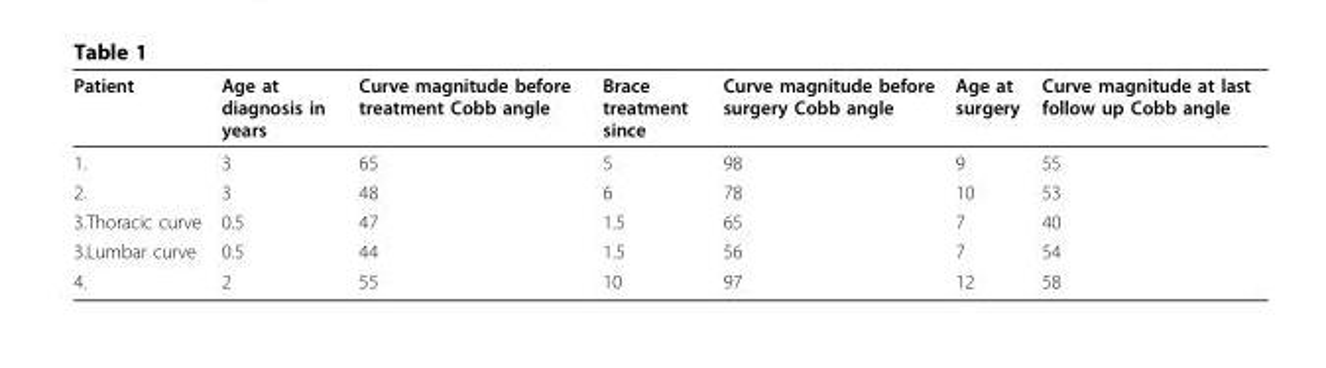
<table><thead><tr><td>Patient</td><td>Age at diagnosis in years</td><td>Curve magnitude before treatment Cobb angle</td><td>Brace treatment since</td><td>Curve magnitude before surgery Cobb angle</td><td>Age at surgery</td><td>Curve magnitude at last follow up Cobb angle</td></tr></thead><tbody><tr><td>1.</td><td>3</td><td>65</td><td>5</td><td>98</td><td>9</td><td>55</td></tr><tr><td>2.</td><td>3</td><td>48</td><td>6</td><td>78</td><td>10</td><td>53</td></tr><tr><td>3.Thoracic curve</td><td>0.5</td><td>47</td><td>1.5</td><td>65</td><td>7</td><td>40</td></tr><tr><td>3.Lumbar curve</td><td>0.5</td><td>44</td><td>1.5</td><td>56</td><td>7</td><td>54</td></tr><tr><td>4.</td><td>2</td><td>55</td><td>10</td><td>97</td><td>12</td><td>58</td></tr></tbody></table>